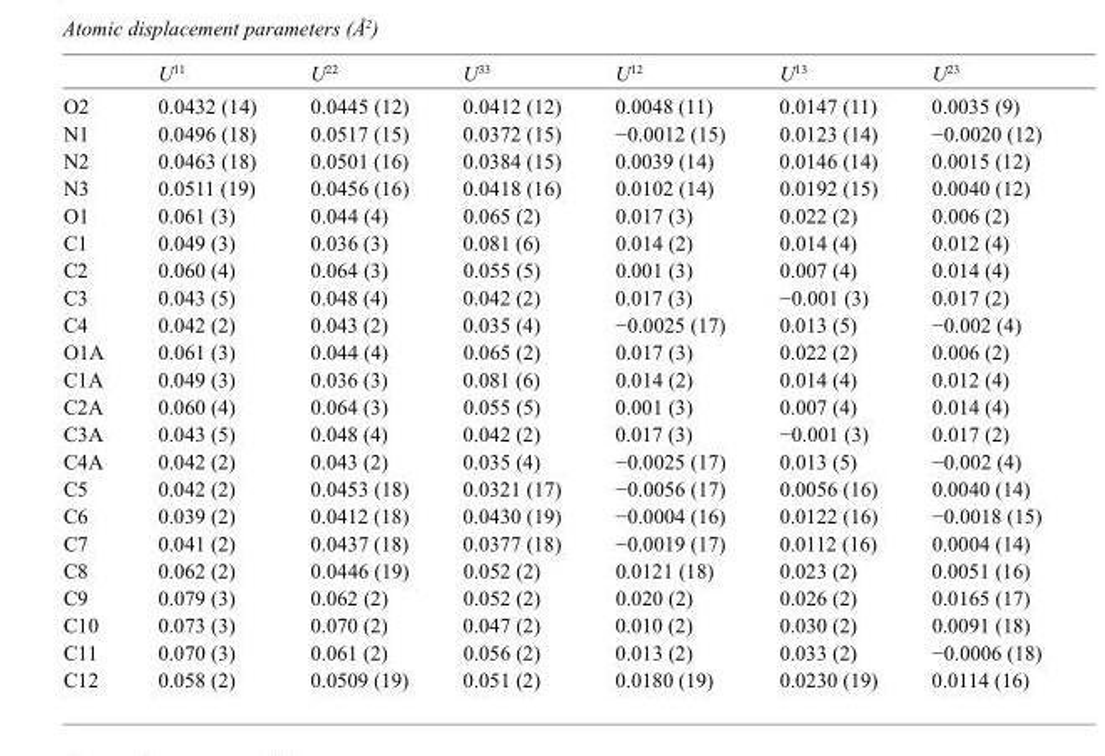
<table><thead><tr><td></td><td>U<sup>11</sup></td><td>U<sup>22</sup></td><td>U<sup>33</sup></td><td>U<sup>12</sup></td><td>U<sup>13</sup></td><td>U<sup>23</sup></td></tr></thead><tbody><tr><td>O2</td><td>0.0432 (14)</td><td>0.0445 (12)</td><td>0.0412 (12)</td><td>0.0048 (11)</td><td>0.0147 (11)</td><td>0.0035 (9)</td></tr><tr><td>N1</td><td>0.0496 (18)</td><td>0.0517 (15)</td><td>0.0372 (15)</td><td>−0.0012 (15)</td><td>0.0123 (14)</td><td>−0.0020 (12)</td></tr><tr><td>N2</td><td>0.0463 (18)</td><td>0.0501 (16)</td><td>0.0384 (15)</td><td>0.0039 (14)</td><td>0.0146 (14)</td><td>0.0015 (12)</td></tr><tr><td>N3</td><td>0.0511 (19)</td><td>0.0456 (16)</td><td>0.0418 (16)</td><td>0.0102 (14)</td><td>0.0192 (15)</td><td>0.0040 (12)</td></tr><tr><td>O1</td><td>0.061 (3)</td><td>0.044 (4)</td><td>0.065 (2)</td><td>0.017 (3)</td><td>0.022 (2)</td><td>0.006 (2)</td></tr><tr><td>C1</td><td>0.049 (3)</td><td>0.036 (3)</td><td>0.081 (6)</td><td>0.014 (2)</td><td>0.014 (4)</td><td>0.012 (4)</td></tr><tr><td>C2</td><td>0.060 (4)</td><td>0.064 (3)</td><td>0.055 (5)</td><td>0.001 (3)</td><td>0.007 (4)</td><td>0.014 (4)</td></tr><tr><td>C3</td><td>0.043 (5)</td><td>0.048 (4)</td><td>0.042 (2)</td><td>0.017 (3)</td><td>−0.001 (3)</td><td>0.017 (2)</td></tr><tr><td>C4</td><td>0.042 (2)</td><td>0.043 (2)</td><td>0.035 (4)</td><td>−0.0025 (17)</td><td>0.013 (5)</td><td>−0.002 (4)</td></tr><tr><td>O1A</td><td>0.061 (3)</td><td>0.044 (4)</td><td>0.065 (2)</td><td>0.017 (3)</td><td>0.022 (2)</td><td>0.006 (2)</td></tr><tr><td>C1A</td><td>0.049 (3)</td><td>0.036 (3)</td><td>0.081 (6)</td><td>0.014 (2)</td><td>0.014 (4)</td><td>0.012 (4)</td></tr><tr><td>C2A</td><td>0.060 (4)</td><td>0.064 (3)</td><td>0.055 (5)</td><td>0.001 (3)</td><td>0.007 (4)</td><td>0.014 (4)</td></tr><tr><td>C3A</td><td>0.043 (5)</td><td>0.048 (4)</td><td>0.042 (2)</td><td>0.017 (3)</td><td>−0.001 (3)</td><td>0.017 (2)</td></tr><tr><td>C4A</td><td>0.042 (2)</td><td>0.043 (2)</td><td>0.035 (4)</td><td>−0.0025 (17)</td><td>0.013 (5)</td><td>−0.002 (4)</td></tr><tr><td>C5</td><td>0.042 (2)</td><td>0.0453 (18)</td><td>0.0321 (17)</td><td>−0.0056 (17)</td><td>0.0056 (16)</td><td>0.0040 (14)</td></tr><tr><td>C6</td><td>0.039 (2)</td><td>0.0412 (18)</td><td>0.0430 (19)</td><td>−0.0004 (16)</td><td>0.0122 (16)</td><td>−0.0018 (15)</td></tr><tr><td>C7</td><td>0.041 (2)</td><td>0.0437 (18)</td><td>0.0377 (18)</td><td>−0.0019 (17)</td><td>0.0112 (16)</td><td>0.0004 (14)</td></tr><tr><td>C8</td><td>0.062 (2)</td><td>0.0446 (19)</td><td>0.052 (2)</td><td>0.0121 (18)</td><td>0.023 (2)</td><td>0.0051 (16)</td></tr><tr><td>C9</td><td>0.079 (3)</td><td>0.062 (2)</td><td>0.052 (2)</td><td>0.020 (2)</td><td>0.026 (2)</td><td>0.0165 (17)</td></tr><tr><td>C10</td><td>0.073 (3)</td><td>0.070 (2)</td><td>0.047 (2)</td><td>0.010 (2)</td><td>0.030 (2)</td><td>0.0091 (18)</td></tr><tr><td>C11</td><td>0.070 (3)</td><td>0.061 (2)</td><td>0.056 (2)</td><td>0.013 (2)</td><td>0.033 (2)</td><td>−0.0006 (18)</td></tr><tr><td>C12</td><td>0.058 (2)</td><td>0.0509 (19)</td><td>0.051 (2)</td><td>0.0180 (19)</td><td>0.0230 (19)</td><td>0.0114 (16)</td></tr></tbody></table>